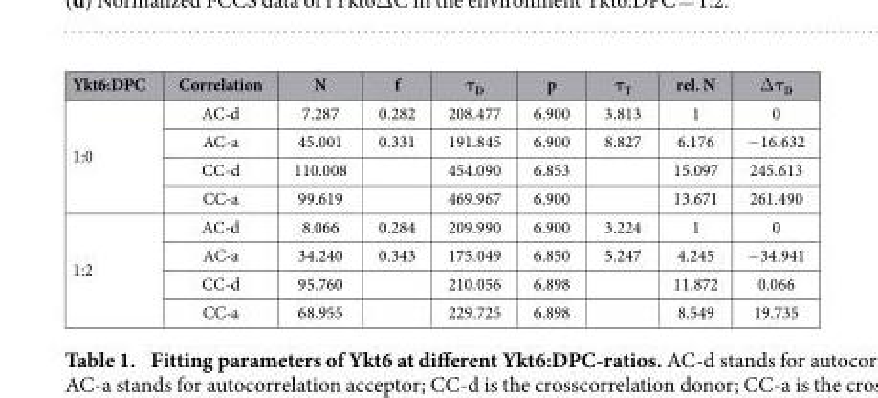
<table><thead><tr><td>Ykt6:DPC</td><td>Correlation</td><td>N</td><td>f</td><td>τ<sub>D</sub></td><td>p</td><td>τ<sub>T</sub></td><td>rel. N</td><td>Δ τ<sub>D</sub></td></tr></thead><tbody><tr><td rowspan="4">1:0</td><td>AC-d</td><td>7.287</td><td>0.282</td><td>208.477</td><td>6.900</td><td>3.813</td><td>1</td><td>0</td></tr><tr><td>AC-a</td><td>45.001</td><td>0.331</td><td>191.845</td><td>6.900</td><td>8.827</td><td>6.176</td><td>− 16.632</td></tr><tr><td>CC-d</td><td>110.008</td><td></td><td>454.090</td><td>6.853</td><td></td><td>15.097</td><td>245.613</td></tr><tr><td>CC-a</td><td>99.619</td><td></td><td>469.967</td><td>6.900</td><td></td><td>13.671</td><td>261.490</td></tr><tr><td rowspan="4">1:2</td><td>AC-d</td><td>8.066</td><td>0.284</td><td>209.990</td><td>6.900</td><td>3.224</td><td>1</td><td>0</td></tr><tr><td>AC-a</td><td>34.240</td><td>0.343</td><td>175.049</td><td>6.850</td><td>5.247</td><td>4.245</td><td>− 34.941</td></tr><tr><td>CC-d</td><td>95.760</td><td></td><td>210.056</td><td>6.898</td><td></td><td>11.872</td><td>0.066</td></tr><tr><td>CC-a</td><td>68.955</td><td></td><td>229.725</td><td>6.898</td><td></td><td>8.549</td><td>19.735</td></tr></tbody></table>